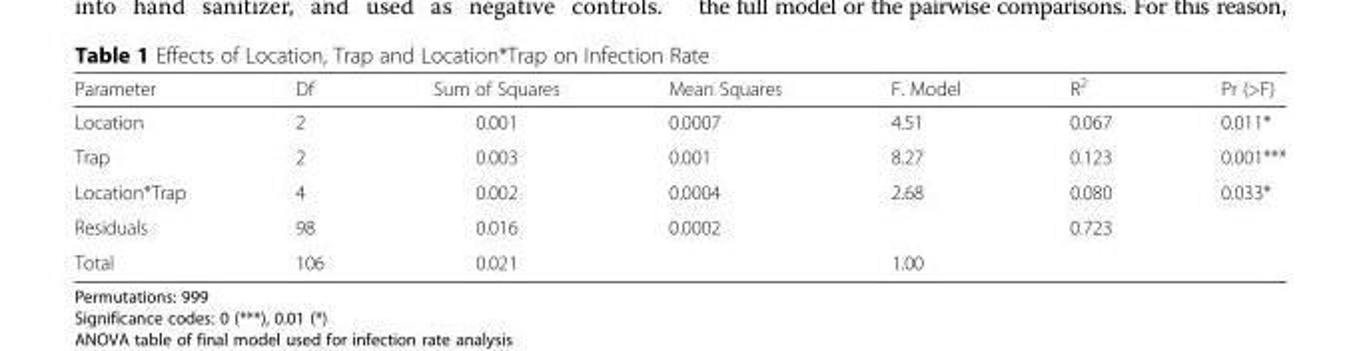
<table><thead><tr><td>Parameter</td><td>Df</td><td>Sum of Squares</td><td>Mean Squares</td><td>F. Model</td><td>R<sup>2</sup></td><td>Pr (&gt;F)</td></tr></thead><tbody><tr><td>Location</td><td>2</td><td>0.001</td><td>0.0007</td><td>4.51</td><td>0.067</td><td>0.011*</td></tr><tr><td>Trap</td><td>2</td><td>0.003</td><td>0.001</td><td>8.27</td><td>0.123</td><td>0.001***</td></tr><tr><td>Location*Trap</td><td>4</td><td>0.002</td><td>0.0004</td><td>2.68</td><td>0.080</td><td>0.033*</td></tr><tr><td>Residuals</td><td>98</td><td>0.016</td><td>0.0002</td><td></td><td>0.723</td><td></td></tr><tr><td>Total</td><td>106</td><td>0.021</td><td></td><td>1.00</td><td></td><td></td></tr></tbody></table>